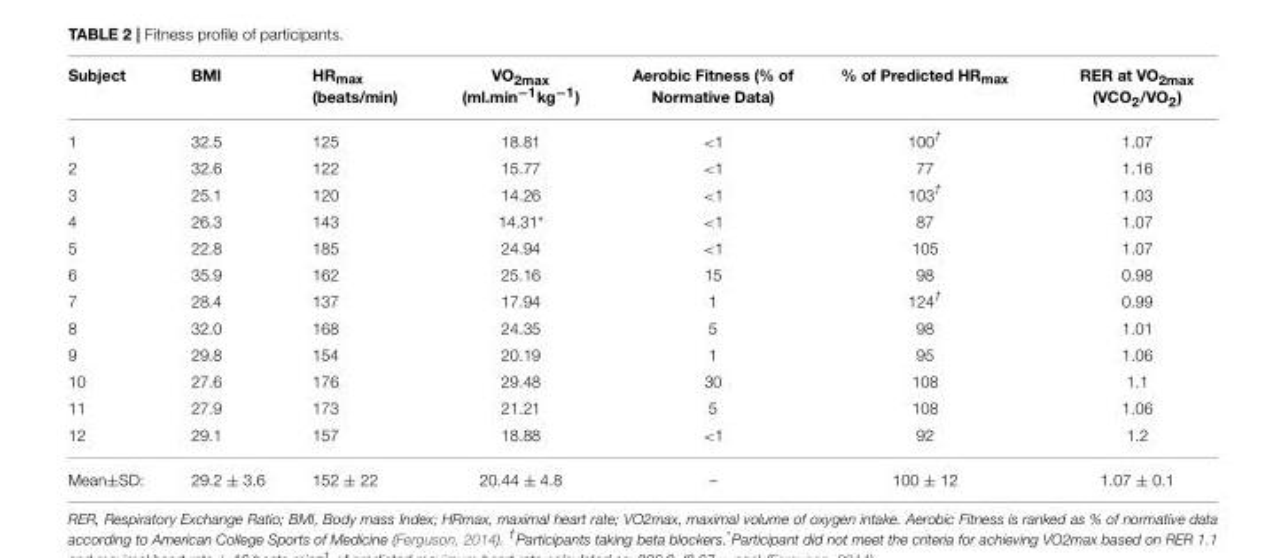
<table><thead><tr><td>Subject</td><td>BMI</td><td>HR<sub>max</sub> (beats/min)</td><td>VO<sub>2max</sub> (ml.min<sup>−1</sup>kg<sup>−1</sup>)</td><td>Aerobic Fitness (% of Normative Data)</td><td>% of Predicted HR<sub>max</sub></td><td>RER at VO<sub>2max</sub> (VCO<sub>2</sub>/VO<sub>2</sub>)</td></tr></thead><tbody><tr><td>1</td><td>32.5</td><td>125</td><td>18.81</td><td>&lt;1</td><td>100<sup>†</sup></td><td>1.07</td></tr><tr><td>2</td><td>32.6</td><td>122</td><td>15.77</td><td>&lt;1</td><td>77</td><td>1.16</td></tr><tr><td>3</td><td>25.1</td><td>120</td><td>14.26</td><td>&lt;1</td><td>103<sup>†</sup></td><td>1.03</td></tr><tr><td>4</td><td>26.3</td><td>143</td><td>14.31*</td><td>&lt;1</td><td>87</td><td>1.07</td></tr><tr><td>5</td><td>22.8</td><td>185</td><td>24.94</td><td>&lt;1</td><td>105</td><td>1.07</td></tr><tr><td>6</td><td>35.9</td><td>162</td><td>25.16</td><td>15</td><td>98</td><td>0.98</td></tr><tr><td>7</td><td>28.4</td><td>137</td><td>17.94</td><td>1</td><td>124<sup>†</sup></td><td>0.99</td></tr><tr><td>8</td><td>32.0</td><td>168</td><td>24.35</td><td>5</td><td>98</td><td>1.01</td></tr><tr><td>9</td><td>29.8</td><td>154</td><td>20.19</td><td>1</td><td>95</td><td>1.06</td></tr><tr><td>10</td><td>27.6</td><td>176</td><td>29.48</td><td>30</td><td>108</td><td>1.1</td></tr><tr><td>11</td><td>27.9</td><td>173</td><td>21.21</td><td>5</td><td>108</td><td>1.06</td></tr><tr><td>12</td><td>29.1</td><td>157</td><td>18.88</td><td>&lt;1</td><td>92</td><td>1.2</td></tr><tr><td>Mean±SD:</td><td>29.2 ± 3.6</td><td>152 ± 22</td><td>20.44 ± 4.8</td><td>–</td><td>100 ± 12</td><td>1.07 ± 0.1</td></tr></tbody></table>